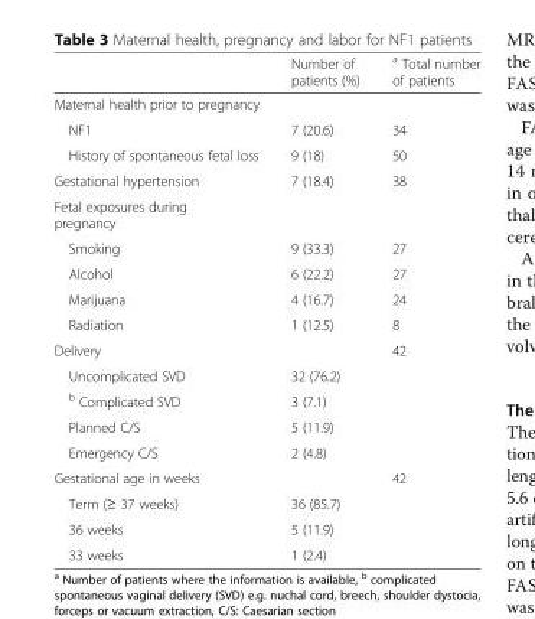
<table><thead><tr><td></td><td>Number of patients (%)</td><td><sup>a</sup> Total number of patients</td></tr></thead><tbody><tr><td colspan="3">Maternal health prior to pregnancy</td></tr><tr><td>NF1</td><td>7 (20.6)</td><td>34</td></tr><tr><td>History of spontaneous fetal loss</td><td>9 (18)</td><td>50</td></tr><tr><td>Gestational hypertension</td><td>7 (18.4)</td><td>38</td></tr><tr><td colspan="3">Fetal exposures during pregnancy</td></tr><tr><td>Smoking</td><td>9 (33.3)</td><td>27</td></tr><tr><td>Alcohol</td><td>6 (22.2)</td><td>27</td></tr><tr><td>Marijuana</td><td>4 (16.7)</td><td>24</td></tr><tr><td>Radiation</td><td>1 (12.5)</td><td>8</td></tr><tr><td>Delivery</td><td></td><td>42</td></tr><tr><td>Uncomplicated SVD</td><td>32 (76.2)</td><td></td></tr><tr><td><sup>b</sup> Complicated SVD</td><td>3 (7.1)</td><td></td></tr><tr><td>Planned C/S</td><td>5 (11.9)</td><td></td></tr><tr><td>Emergency C/S</td><td>2 (4.8)</td><td></td></tr><tr><td>Gestational age in weeks</td><td></td><td>42</td></tr><tr><td>Term (≥ 37 weeks)</td><td>36 (85.7)</td><td></td></tr><tr><td>36 weeks</td><td>5 (11.9)</td><td></td></tr><tr><td>33 weeks</td><td>1 (2.4)</td><td></td></tr></tbody></table>